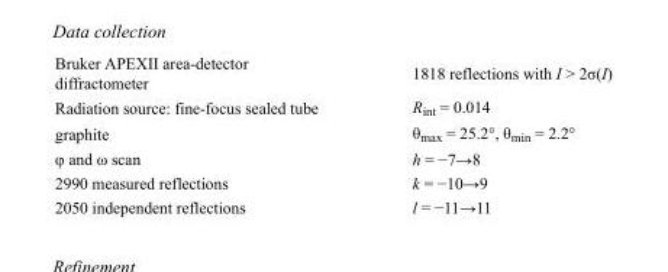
<table><tbody><tr><td>Bruker APEXII area-detector diffractometer</td><td>1818 reflections with I &gt; 2σ(I)</td></tr><tr><td>Radiation source: fine-focus sealed tube</td><td>R<sub>int</sub> = 0.014</td></tr><tr><td>graphite</td><td>θ<sub>max</sub> = 25.2°, θ<sub>min</sub> = 2.2°</td></tr><tr><td>φ and ω scan</td><td>h = −7→8</td></tr><tr><td>2990 measured reflections</td><td>k = −10→9</td></tr><tr><td>2050 independent reflections</td><td>l = −11→11</td></tr></tbody></table>